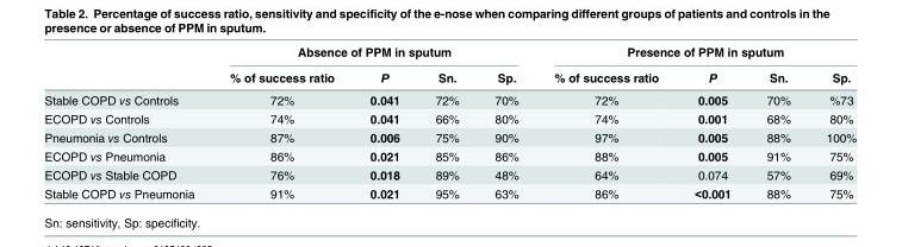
<table><thead><tr><td rowspan="2"></td><td colspan="4">Absence of PPM in sputum</td><td colspan="4">Presence of PPM in sputum</td></tr><tr><td>% of success ratio</td><td>P</td><td>Sn.</td><td>Sp.</td><td>% of success ratio</td><td>P</td><td>Sn.</td><td>Sp.</td></tr></thead><tbody><tr><td>Stable COPD vs Controls</td><td>72%</td><td>0.041</td><td>72%</td><td>70%</td><td>72%</td><td>0.005</td><td>70%</td><td>%73</td></tr><tr><td>ECOPD vs Controls</td><td>74%</td><td>0.041</td><td>66%</td><td>80%</td><td>74%</td><td>0.001</td><td>68%</td><td>80%</td></tr><tr><td>Pneumonia vs Controls</td><td>87%</td><td>0.006</td><td>75%</td><td>90%</td><td>97%</td><td>0.005</td><td>88%</td><td>100%</td></tr><tr><td>ECOPD vs Pneumonia</td><td>86%</td><td>0.021</td><td>85%</td><td>86%</td><td>88%</td><td>0.005</td><td>91%</td><td>75%</td></tr><tr><td>ECOPD vs Stable COPD</td><td>76%</td><td>0.018</td><td>89%</td><td>48%</td><td>64%</td><td>0.074</td><td>57%</td><td>69%</td></tr><tr><td>Stable COPD vs Pneumonia</td><td>91%</td><td>0.021</td><td>95%</td><td>63%</td><td>86%</td><td>&lt;0.001</td><td>88%</td><td>75%</td></tr></tbody></table>